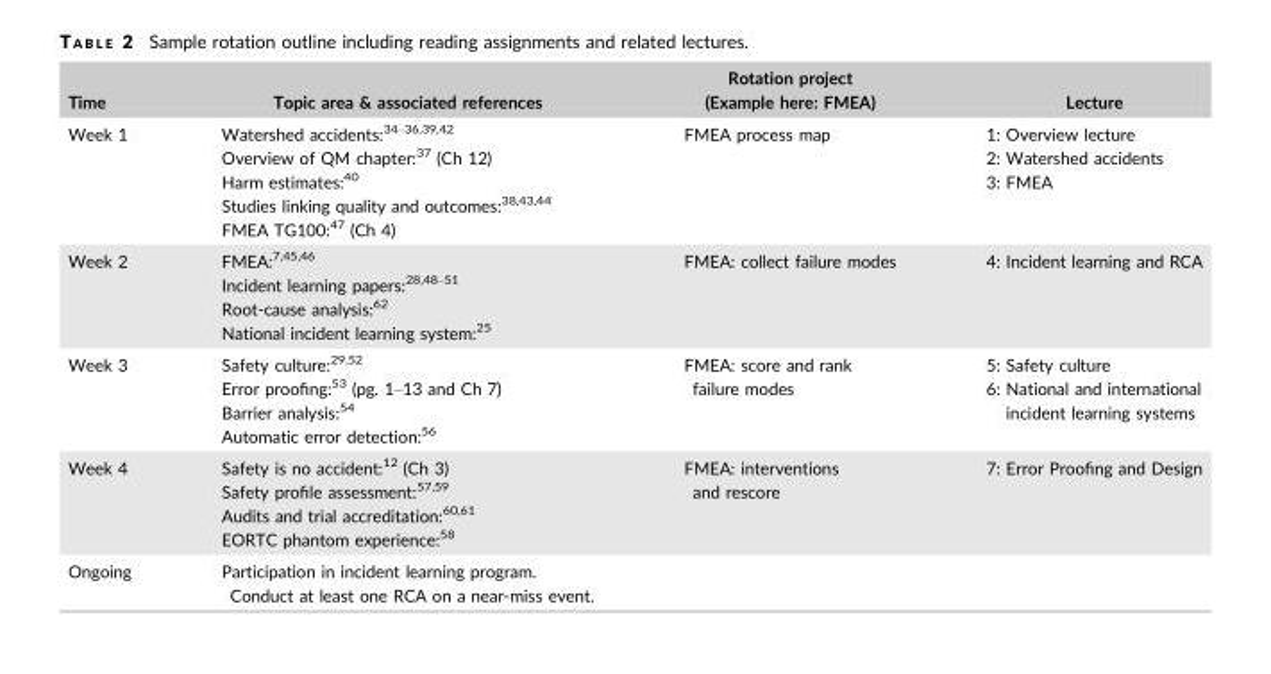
<table><thead><tr><td>Time</td><td>Topic area &amp; associated references</td><td>Rotation project (Example here: FMEA)</td><td>Lecture</td></tr></thead><tbody><tr><td>Week 1</td><td>Watershed accidents:34–36,39,42 Overview of QM chapter:37 (Ch 12) Harm estimates:40 Studies linking quality and outcomes:38,43,44 FMEA TG100:47 (Ch 4)</td><td>FMEA process map</td><td>1: Overview lecture 2: Watershed accidents 3: FMEA</td></tr><tr><td>Week 2</td><td>FMEA:7,45,46 Incident learning papers:28,48–51 Root-cause analysis:62 National incident learning system:25</td><td>FMEA: collect failure modes</td><td>4: Incident learning and RCA</td></tr><tr><td>Week 3</td><td>Safety culture:<sup>29</sup>,<sup>52</sup> Error proofing:<sup>53</sup> (pg. 1–13 and Ch 7) Barrier analysis:<sup>54</sup> Automatic error detection:<sup>56</sup></td><td>FMEA: score and rank failure modes</td><td>5: Safety culture 6: National and international incident learning systems</td></tr><tr><td>Week 4</td><td>Safety is no accident:<sup>12</sup> (Ch 3) Safety profile assessment:<sup>57</sup>,<sup>59</sup> Audits and trial accreditation:<sup>60</sup>,<sup>61</sup> EORTC phantom experience:<sup>58</sup></td><td>FMEA: interventions and rescore</td><td>7: Error Proofing and Design</td></tr><tr><td>Ongoing</td><td>Participation in incident learning program. Conduct at least one RCA on a near-miss event.</td><td></td><td></td></tr></tbody></table>